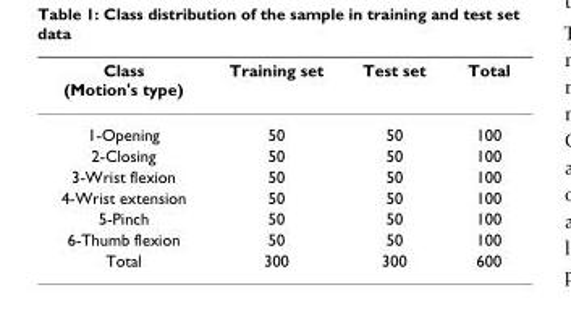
<table><thead><tr><td>Class (Motion&#x27;s type)</td><td>Training set</td><td>Test set</td><td>Total</td></tr></thead><tbody><tr><td>1-Opening</td><td>50</td><td>50</td><td>100</td></tr><tr><td>2-Closing</td><td>50</td><td>50</td><td>100</td></tr><tr><td>3-Wrist flexion</td><td>50</td><td>50</td><td>100</td></tr><tr><td>4-Wrist extension</td><td>50</td><td>50</td><td>100</td></tr><tr><td>5-Pinch</td><td>50</td><td>50</td><td>100</td></tr><tr><td>6-Thumb flexion</td><td>50</td><td>50</td><td>100</td></tr><tr><td>Total</td><td>300</td><td>300</td><td>600</td></tr></tbody></table>